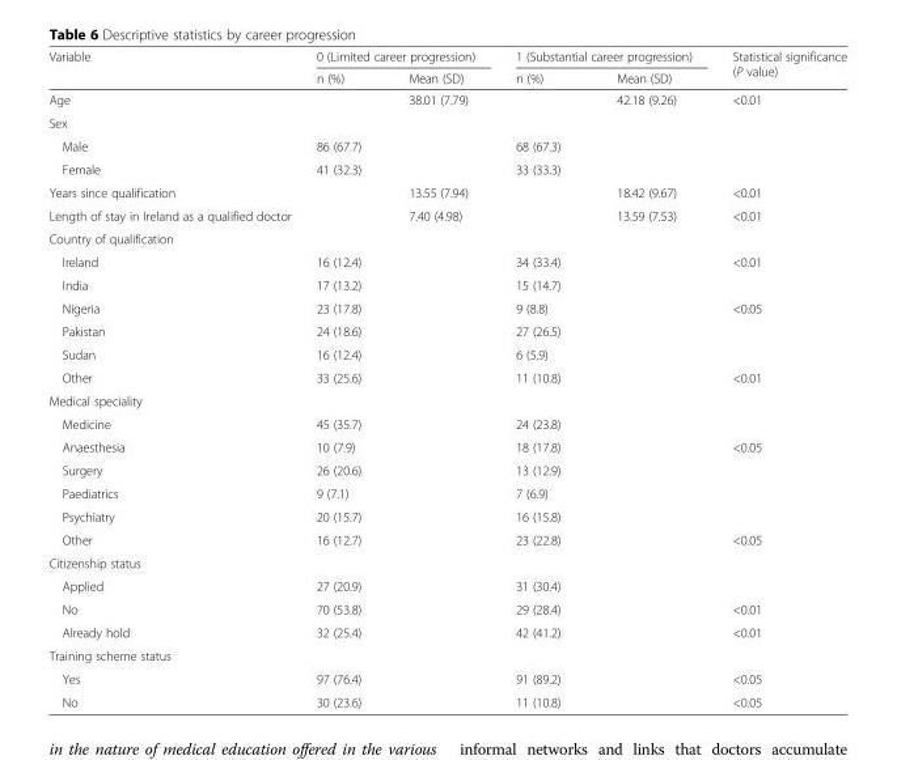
<table><thead><tr><td rowspan="2">Variable</td><td colspan="2">0 (Limited career progression)</td><td colspan="2">1 (Substantial career progression)</td><td rowspan="2">Statistical significance (P value)</td></tr><tr><td>n (%)</td><td>Mean (SD)</td><td>n (%)</td><td>Mean (SD)</td></tr></thead><tbody><tr><td>Age</td><td></td><td>38.01 (7.79)</td><td></td><td>42.18 (9.26)</td><td>&lt;0.01</td></tr><tr><td colspan="6">Sex</td></tr><tr><td>Male</td><td>86 (67.7)</td><td></td><td>68 (67.3)</td><td></td><td></td></tr><tr><td>Female</td><td>41 (32.3)</td><td></td><td>33 (33.3)</td><td></td><td></td></tr><tr><td>Years since qualification</td><td></td><td>13.55 (7.94)</td><td></td><td>18.42 (9.67)</td><td>&lt;0.01</td></tr><tr><td>Length of stay in Ireland as a qualified doctor</td><td></td><td>7.40 (4.98)</td><td></td><td>13.59 (7.53)</td><td>&lt;0.01</td></tr><tr><td colspan="6">Country of qualification</td></tr><tr><td>Ireland</td><td>16 (12.4)</td><td></td><td>34 (33.4)</td><td></td><td>&lt;0.01</td></tr><tr><td>India</td><td>17 (13.2)</td><td></td><td>15 (14.7)</td><td></td><td></td></tr><tr><td>Nigeria</td><td>23 (17.8)</td><td></td><td>9 (8.8)</td><td></td><td>&lt;0.05</td></tr><tr><td>Pakistan</td><td>24 (18.6)</td><td></td><td>27 (26.5)</td><td></td><td></td></tr><tr><td>Sudan</td><td>16 (12.4)</td><td></td><td>6 (5.9)</td><td></td><td></td></tr><tr><td>Other</td><td>33 (25.6)</td><td></td><td>11 (10.8)</td><td></td><td>&lt;0.01</td></tr><tr><td colspan="6">Medical speciality</td></tr><tr><td>Medicine</td><td>45 (35.7)</td><td></td><td>24 (23.8)</td><td></td><td></td></tr><tr><td>Anaesthesia</td><td>10 (7.9)</td><td></td><td>18 (17.8)</td><td></td><td>&lt;0.05</td></tr><tr><td>Surgery</td><td>26 (20.6)</td><td></td><td>13 (12.9)</td><td></td><td></td></tr><tr><td>Paediatrics</td><td>9 (7.1)</td><td></td><td>7 (6.9)</td><td></td><td></td></tr><tr><td>Psychiatry</td><td>20 (15.7)</td><td></td><td>16 (15.8)</td><td></td><td></td></tr><tr><td>Other</td><td>16 (12.7)</td><td></td><td>23 (22.8)</td><td></td><td>&lt;0.05</td></tr><tr><td colspan="6">Citizenship status</td></tr><tr><td>Applied</td><td>27 (20.9)</td><td></td><td>31 (30.4)</td><td></td><td></td></tr><tr><td>No</td><td>70 (53.8)</td><td></td><td>29 (28.4)</td><td></td><td>&lt;0.01</td></tr><tr><td>Already hold</td><td>32 (25.4)</td><td></td><td>42 (41.2)</td><td></td><td>&lt;0.01</td></tr><tr><td colspan="6">Training scheme status</td></tr><tr><td>Yes</td><td>97 (76.4)</td><td></td><td>91 (89.2)</td><td></td><td>&lt;0.05</td></tr><tr><td>No</td><td>30 (23.6)</td><td></td><td>11 (10.8)</td><td></td><td>&lt;0.05</td></tr></tbody></table>